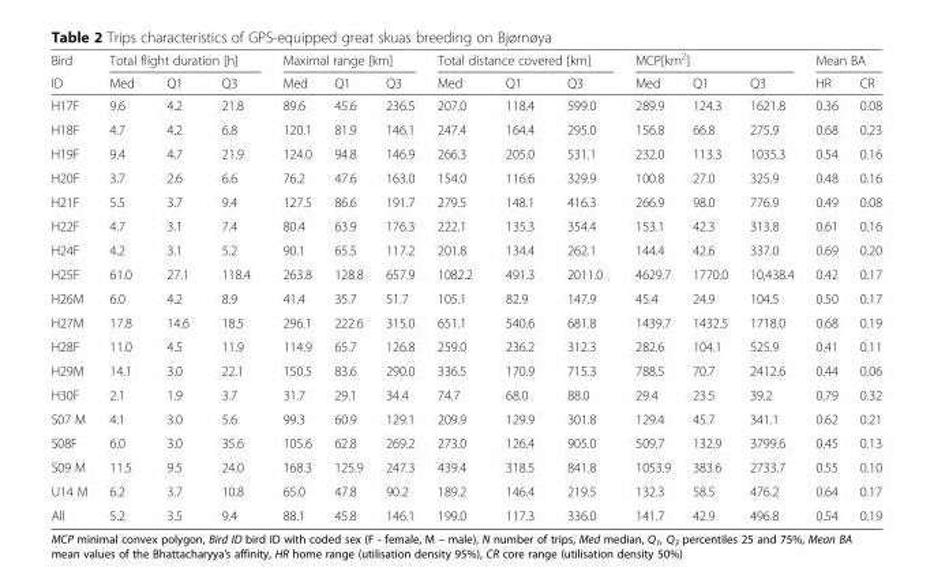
<table><thead><tr><td rowspan="2">Bird ID</td><td colspan="3">Total flight duration [h]</td><td colspan="3">Maximal range [km]</td><td colspan="3">Total distance covered [km]</td><td colspan="3">MCP[km<sup>2</sup>]</td><td colspan="2">Mean BA</td></tr><tr><td>Med</td><td>Q1</td><td>Q3</td><td>Med</td><td>Q1</td><td>Q3</td><td>Med</td><td>Q1</td><td>Q3</td><td>Med</td><td>Q1</td><td>Q3</td><td>HR</td><td>CR</td></tr></thead><tbody><tr><td>H17F</td><td>9.6</td><td>4.2</td><td>21.8</td><td>89.6</td><td>45.6</td><td>236.5</td><td>207.0</td><td>118.4</td><td>599.0</td><td>289.9</td><td>124.3</td><td>1621.8</td><td>0.36</td><td>0.08</td></tr><tr><td>H18F</td><td>4.7</td><td>4.2</td><td>6.8</td><td>120.1</td><td>81.9</td><td>146.1</td><td>247.4</td><td>164.4</td><td>295.0</td><td>156.8</td><td>66.8</td><td>275.9</td><td>0.68</td><td>0.23</td></tr><tr><td>H19F</td><td>9.4</td><td>4.7</td><td>21.9</td><td>124.0</td><td>94.8</td><td>146.9</td><td>266.3</td><td>205.0</td><td>531.1</td><td>232.0</td><td>113.3</td><td>1035.3</td><td>0.54</td><td>0.16</td></tr><tr><td>H20F</td><td>3.7</td><td>2.6</td><td>6.6</td><td>76.2</td><td>47.6</td><td>163.0</td><td>154.0</td><td>116.6</td><td>329.9</td><td>100.8</td><td>27.0</td><td>325.9</td><td>0.48</td><td>0.16</td></tr><tr><td>H21F</td><td>5.5</td><td>3.7</td><td>9.4</td><td>127.5</td><td>86.6</td><td>191.7</td><td>279.5</td><td>148.1</td><td>416.3</td><td>266.9</td><td>98.0</td><td>776.9</td><td>0.49</td><td>0.08</td></tr><tr><td>H22F</td><td>4.7</td><td>3.1</td><td>7.4</td><td>80.4</td><td>63.9</td><td>176.3</td><td>222.1</td><td>135.3</td><td>354.4</td><td>153.1</td><td>42.3</td><td>313.8</td><td>0.61</td><td>0.16</td></tr><tr><td>H24F</td><td>4.2</td><td>3.1</td><td>5.2</td><td>90.1</td><td>65.5</td><td>117.2</td><td>201.8</td><td>134.4</td><td>262.1</td><td>144.4</td><td>42.6</td><td>337.0</td><td>0.69</td><td>0.20</td></tr><tr><td>H25F</td><td>61.0</td><td>27.1</td><td>118.4</td><td>263.8</td><td>128.8</td><td>657.9</td><td>1082.2</td><td>491.3</td><td>2011.0</td><td>4629.7</td><td>1770.0</td><td>10,438.4</td><td>0.42</td><td>0.17</td></tr><tr><td>H26M</td><td>6.0</td><td>4.2</td><td>8.9</td><td>41.4</td><td>35.7</td><td>51.7</td><td>105.1</td><td>82.9</td><td>147.9</td><td>45.4</td><td>24.9</td><td>104.5</td><td>0.50</td><td>0.17</td></tr><tr><td>H27M</td><td>17.8</td><td>14.6</td><td>18.5</td><td>296.1</td><td>222.6</td><td>315.0</td><td>651.1</td><td>540.6</td><td>681.8</td><td>1439.7</td><td>1432.5</td><td>1718.0</td><td>0.68</td><td>0.19</td></tr><tr><td>H28F</td><td>11.0</td><td>4.5</td><td>11.9</td><td>114.9</td><td>65.7</td><td>126.8</td><td>259.0</td><td>236.2</td><td>312.3</td><td>282.6</td><td>104.1</td><td>525.9</td><td>0.41</td><td>0.11</td></tr><tr><td>H29M</td><td>14.1</td><td>3.0</td><td>22.1</td><td>150.5</td><td>83.6</td><td>290.0</td><td>336.5</td><td>170.9</td><td>715.3</td><td>788.5</td><td>70.7</td><td>2412.6</td><td>0.44</td><td>0.06</td></tr><tr><td>H30F</td><td>2.1</td><td>1.9</td><td>3.7</td><td>31.7</td><td>29.1</td><td>34.4</td><td>74.7</td><td>68.0</td><td>88.0</td><td>29.4</td><td>23.5</td><td>39.2</td><td>0.79</td><td>0.32</td></tr><tr><td>S07 M</td><td>4.1</td><td>3.0</td><td>5.6</td><td>99.3</td><td>60.9</td><td>129.1</td><td>209.9</td><td>129.9</td><td>301.8</td><td>129.4</td><td>45.7</td><td>341.1</td><td>0.62</td><td>0.21</td></tr><tr><td>S08F</td><td>6.0</td><td>3.0</td><td>35.6</td><td>105.6</td><td>62.8</td><td>269.2</td><td>273.0</td><td>126.4</td><td>905.0</td><td>509.7</td><td>132.9</td><td>3799.6</td><td>0.45</td><td>0.13</td></tr><tr><td>S09 M</td><td>11.5</td><td>9.5</td><td>24.0</td><td>168.3</td><td>125.9</td><td>247.3</td><td>439.4</td><td>318.5</td><td>841.8</td><td>1053.9</td><td>383.6</td><td>2733.7</td><td>0.55</td><td>0.10</td></tr><tr><td>U14 M</td><td>6.2</td><td>3.7</td><td>10.8</td><td>65.0</td><td>47.8</td><td>90.2</td><td>189.2</td><td>146.4</td><td>219.5</td><td>132.3</td><td>58.5</td><td>476.2</td><td>0.64</td><td>0.17</td></tr><tr><td>All</td><td>5.2</td><td>3.5</td><td>9.4</td><td>88.1</td><td>45.8</td><td>146.1</td><td>199.0</td><td>117.3</td><td>336.0</td><td>141.7</td><td>42.9</td><td>496.8</td><td>0.54</td><td>0.19</td></tr></tbody></table>